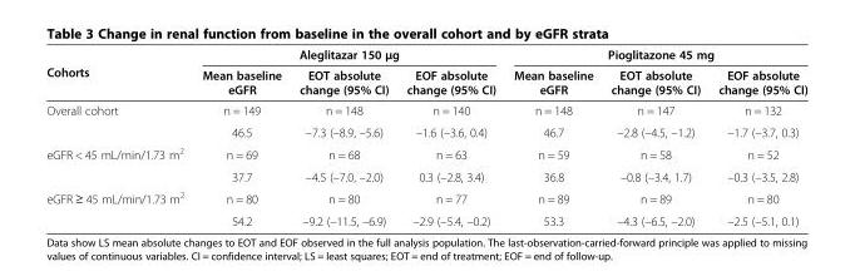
<table><thead><tr><td rowspan="2">Cohorts</td><td colspan="3">Aleglitazar 150 μg</td><td colspan="3">Pioglitazone 45 mg</td></tr><tr><td>Mean baseline eGFR</td><td>EOT absolute change (95% CI)</td><td>EOF absolute change (95% CI)</td><td>Mean baseline eGFR</td><td>EOT absolute change (95% CI)</td><td>EOF absolute change (95% CI)</td></tr></thead><tbody><tr><td rowspan="2">Overall cohort</td><td>n = 149</td><td>n = 148</td><td>n = 140</td><td>n = 148</td><td>n = 147</td><td>n = 132</td></tr><tr><td>46.5</td><td>–7.3 (–8.9, –5.6)</td><td>–1.6 (–3.6, 0.4)</td><td>46.7</td><td>–2.8 (–4.5, –1.2)</td><td>–1.7 (–3.7, 0.3)</td></tr><tr><td rowspan="2">eGFR &lt; 45 mL/min/1.73 m<sup>2</sup></td><td>n = 69</td><td>n = 68</td><td>n = 63</td><td>n = 59</td><td>n = 58</td><td>n = 52</td></tr><tr><td>37.7</td><td>–4.5 (–7.0, –2.0)</td><td>0.3 (–2.8, 3.4)</td><td>36.8</td><td>–0.8 (–3.4, 1.7)</td><td>–0.3 (–3.5, 2.8)</td></tr><tr><td rowspan="2">eGFR ≥ 45 mL/min/1.73 m<sup>2</sup></td><td>n = 80</td><td>n = 80</td><td>n = 77</td><td>n = 89</td><td>n = 89</td><td>n = 80</td></tr><tr><td>54.2</td><td>–9.2 (–11.5, –6.9)</td><td>–2.9 (–5.4, –0.2)</td><td>53.3</td><td>–4.3 (–6.5, –2.0)</td><td>–2.5 (–5.1, 0.1)</td></tr></tbody></table>